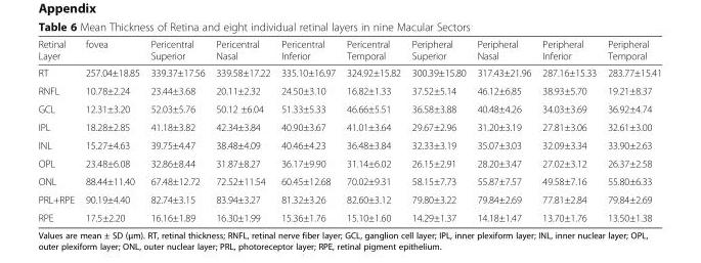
<table><thead><tr><td>Retinal Layer</td><td>fovea</td><td>Pericentral Superior</td><td>Pericentral Nasal</td><td>Pericentral Inferior</td><td>Pericentral Temporal</td><td>Peripheral Superior</td><td>Peripheral Nasal</td><td>Peripheral Inferior</td><td>Peripheral Temporal</td></tr></thead><tbody><tr><td>RT</td><td>257.04±18.85</td><td>339.37±17.56</td><td>339.58±17.22</td><td>335.10±16.97</td><td>324.92±15.82</td><td>300.39±15.80</td><td>317.43±21.96</td><td>287.16±15.33</td><td>283.77±15.41</td></tr><tr><td>RNFL</td><td>10.78±2.24</td><td>23.44±3.68</td><td>20.11±2.32</td><td>24.50±3.10</td><td>16.82±1.33</td><td>37.52±5.14</td><td>46.12±6.85</td><td>38.93±5.70</td><td>19.21±8.37</td></tr><tr><td>GCL</td><td>12.31±3.20</td><td>52.03±5.76</td><td>50.12 ±6.04</td><td>51.33±5.33</td><td>46.66±5.51</td><td>36.58±3.88</td><td>40.48±4.26</td><td>34.03±3.69</td><td>36.92±4.74</td></tr><tr><td>IPL</td><td>18.28±2.85</td><td>41.18±3.82</td><td>42.34±3.84</td><td>40.90±3.67</td><td>41.01±3.64</td><td>29.67±2.96</td><td>31.20±3.19</td><td>27.81±3.06</td><td>32.61±3.00</td></tr><tr><td>INL</td><td>15.27±4.63</td><td>39.75±4.47</td><td>38.48±4.09</td><td>40.46±4.23</td><td>36.48±3.84</td><td>32.33±3.19</td><td>35.07±3.03</td><td>32.09±3.34</td><td>33.90±2.63</td></tr><tr><td>OPL</td><td>23.48±6.08</td><td>32.86±8.44</td><td>31.87±8.27</td><td>36.17±9.90</td><td>31.14±6.02</td><td>26.15±2.91</td><td>28.20±3.47</td><td>27.02±3.12</td><td>26.37±2.58</td></tr><tr><td>ONL</td><td>88.44±11.40</td><td>67.48±12.72</td><td>72.52±11.54</td><td>60.45±12.68</td><td>70.02±9.31</td><td>58.15±7.73</td><td>55.87±7.57</td><td>49.58±7.16</td><td>55.80±6.33</td></tr><tr><td>PRL+RPE</td><td>90.19±4.40</td><td>82.74±3.15</td><td>83.94±3.27</td><td>81.32±3.26</td><td>82.60±3.12</td><td>79.80±3.22</td><td>79.84±2.69</td><td>77.81±2.84</td><td>79.84±2.69</td></tr><tr><td>RPE</td><td>17.5±2.20</td><td>16.16±1.89</td><td>16.30±1.99</td><td>15.36±1.76</td><td>15.10±1.60</td><td>14.29±1.37</td><td>14.18±1.47</td><td>13.70±1.76</td><td>13.50±1.38</td></tr></tbody></table>